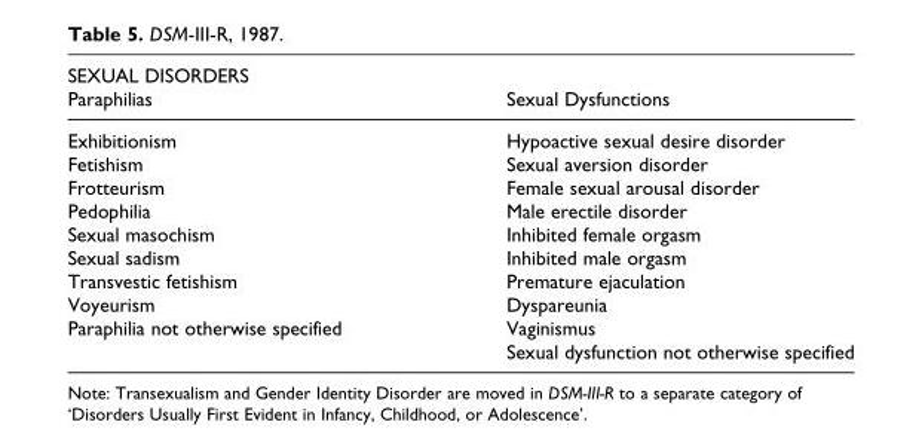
<table><thead><tr><td rowspan="2">SEXUAL DISORDERS Paraphilias</td><td rowspan="2">Sexual Dysfunctions</td></tr><tr></tr></thead><tbody><tr><td>Exhibitionism</td><td>Hypoactive sexual desire disorder</td></tr><tr><td>Fetishism</td><td>Sexual aversion disorder</td></tr><tr><td>Frotteurism</td><td>Female sexual arousal disorder</td></tr><tr><td>Pedophilia</td><td>Male erectile disorder</td></tr><tr><td>Sexual masochism</td><td>Inhibited female orgasm</td></tr><tr><td>Sexual sadism</td><td>Inhibited male orgasm</td></tr><tr><td>Transvestic fetishism</td><td>Premature ejaculation</td></tr><tr><td>Voyeurism</td><td>Dyspareunia</td></tr><tr><td rowspan="2">Paraphilia not otherwise specified</td><td>Vaginismus</td></tr><tr><td>Sexual dysfunction not otherwise specified</td></tr></tbody></table>